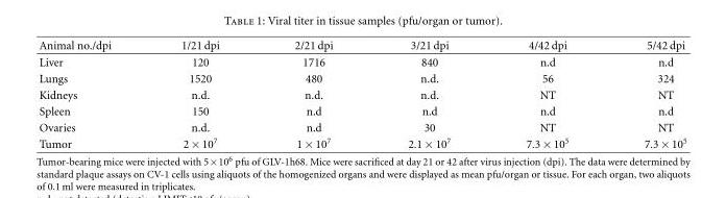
<table><thead><tr><td>Animal no./dpi</td><td>1/21 dpi</td><td>2/21 dpi</td><td>3/21 dpi</td><td>4/42 dpi</td><td>5/42 dpi</td></tr></thead><tbody><tr><td>Liver</td><td>120</td><td>1716</td><td>840</td><td>n.d</td><td>n.d</td></tr><tr><td>Lungs</td><td>1520</td><td>480</td><td>n.d.</td><td>56</td><td>324</td></tr><tr><td>Kidneys</td><td>n.d.</td><td>n.d.</td><td>n.d.</td><td>NT</td><td>NT</td></tr><tr><td>Spleen</td><td>150</td><td>n.d</td><td>n.d</td><td>n.d</td><td>n.d</td></tr><tr><td>Ovaries</td><td>n.d.</td><td>n.d</td><td>30</td><td>NT</td><td>NT</td></tr><tr><td>Tumor</td><td>2 × 10<sup>7</sup></td><td>1 × 10<sup>7</sup></td><td>2.1 × 10<sup>7</sup></td><td>7.3 × 10<sup>5</sup></td><td>7.3 × 10<sup>5</sup></td></tr></tbody></table>